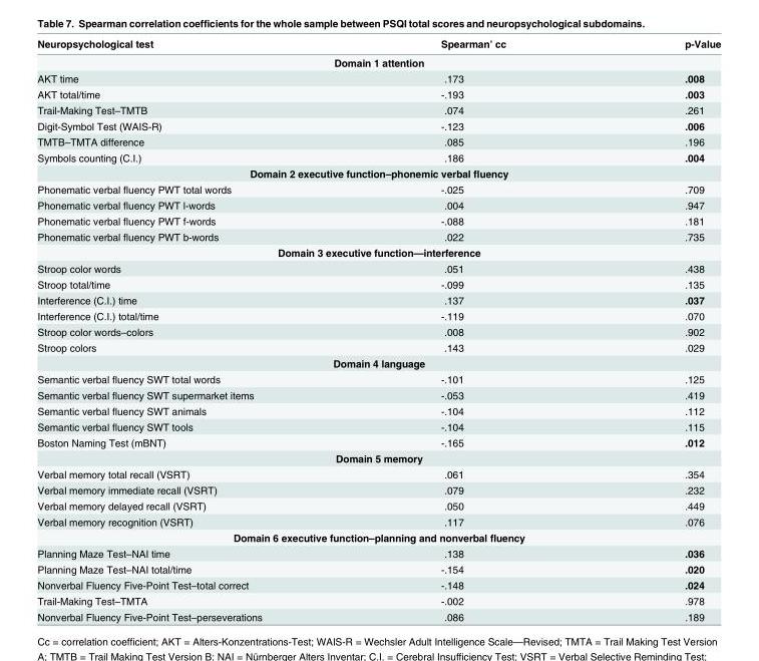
<table><thead><tr><td>Neuropsychological test</td><td>Spearman’ cc</td><td>p-Value</td></tr></thead><tbody><tr><td colspan="3">Domain 1 attention</td></tr><tr><td>AKT time</td><td>.173</td><td>.008</td></tr><tr><td>AKT total/time</td><td>-.193</td><td>.003</td></tr><tr><td>Trail-Making Test–TMTB</td><td>.074</td><td>.261</td></tr><tr><td>Digit-Symbol Test (WAIS-R)</td><td>-.123</td><td>.006</td></tr><tr><td>TMTB–TMTA difference</td><td>.085</td><td>.196</td></tr><tr><td>Symbols counting (C.I.)</td><td>.186</td><td>.004</td></tr><tr><td colspan="3">Domain 2 executive function–phonemic verbal fluency</td></tr><tr><td>Phonematic verbal fluency PWT total words</td><td>-.025</td><td>.709</td></tr><tr><td>Phonematic verbal fluency PWT l-words</td><td>.004</td><td>.947</td></tr><tr><td>Phonematic verbal fluency PWT f-words</td><td>-.088</td><td>.181</td></tr><tr><td>Phonematic verbal fluency PWT b-words</td><td>.022</td><td>.735</td></tr><tr><td colspan="3">Domain 3 executive function—interference</td></tr><tr><td>Stroop color words</td><td>.051</td><td>.438</td></tr><tr><td>Stroop total/time</td><td>-.099</td><td>.135</td></tr><tr><td>Interference (C.I.) time</td><td>.137</td><td>.037</td></tr><tr><td>Interference (C.I.) total/time</td><td>-.119</td><td>.070</td></tr><tr><td>Stroop color words–colors</td><td>.008</td><td>.902</td></tr><tr><td>Stroop colors</td><td>.143</td><td>.029</td></tr><tr><td colspan="3">Domain 4 language</td></tr><tr><td>Semantic verbal fluency SWT total words</td><td>-.101</td><td>.125</td></tr><tr><td>Semantic verbal fluency SWT supermarket items</td><td>-.053</td><td>.419</td></tr><tr><td>Semantic verbal fluency SWT animals</td><td>-.104</td><td>.112</td></tr><tr><td>Semantic verbal fluency SWT tools</td><td>-.104</td><td>.115</td></tr><tr><td>Boston Naming Test (mBNT)</td><td>-.165</td><td>.012</td></tr><tr><td colspan="3">Domain 5 memory</td></tr><tr><td>Verbal memory total recall (VSRT)</td><td>.061</td><td>.354</td></tr><tr><td>Verbal memory immediate recall (VSRT)</td><td>.079</td><td>.232</td></tr><tr><td>Verbal memory delayed recall (VSRT)</td><td>.050</td><td>.449</td></tr><tr><td>Verbal memory recognition (VSRT)</td><td>.117</td><td>.076</td></tr><tr><td colspan="3">Domain 6 executive function–planning and nonverbal fluency</td></tr><tr><td>Planning Maze Test–NAI time</td><td>.138</td><td>.036</td></tr><tr><td>Planning Maze Test–NAI total/time</td><td>-.154</td><td>.020</td></tr><tr><td>Nonverbal Fluency Five-Point Test–total correct</td><td>-.148</td><td>.024</td></tr><tr><td>Trail-Making Test–TMTA</td><td>-.002</td><td>.978</td></tr><tr><td>Nonverbal Fluency Five-Point Test–perseverations</td><td>.086</td><td>.189</td></tr></tbody></table>